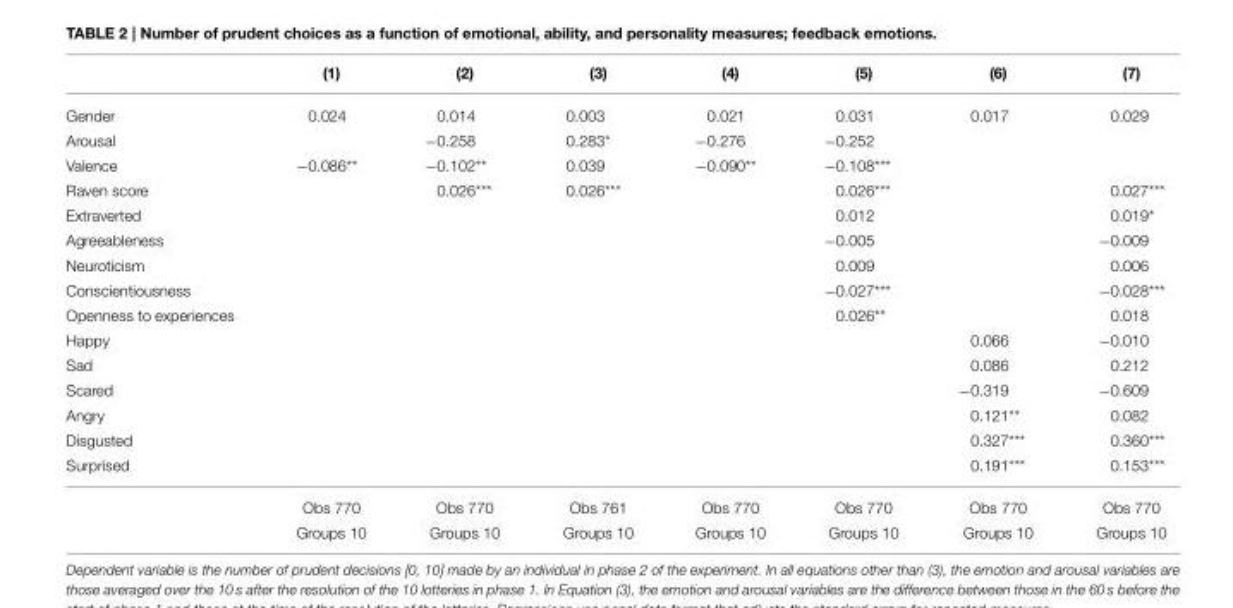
<table><thead><tr><td></td><td>(1)</td><td>(2)</td><td>(3)</td><td>(4)</td><td>(5)</td><td>(6)</td><td>(7)</td></tr></thead><tbody><tr><td>Gender</td><td>0.024</td><td>0.014</td><td>0.003</td><td>0.021</td><td>0.031</td><td>0.017</td><td>0.029</td></tr><tr><td>Arousal</td><td></td><td>−0.258</td><td>0.283*</td><td>−0.276</td><td>−0.252</td><td></td><td></td></tr><tr><td>Valence</td><td>−0.086**</td><td>−0.102**</td><td>0.039</td><td>−0.090**</td><td>−0.108***</td><td></td><td></td></tr><tr><td>Raven score</td><td></td><td>0.026***</td><td>0.026***</td><td></td><td>0.026***</td><td></td><td>0.027***</td></tr><tr><td>Extraverted</td><td></td><td></td><td></td><td></td><td>0.012</td><td></td><td>0.019*</td></tr><tr><td>Agreeableness</td><td></td><td></td><td></td><td></td><td>−0.005</td><td></td><td>−0.009</td></tr><tr><td>Neuroticism</td><td></td><td></td><td></td><td></td><td>0.009</td><td></td><td>0.006</td></tr><tr><td>Conscientiousness</td><td></td><td></td><td></td><td></td><td>−0.027***</td><td></td><td>−0.028***</td></tr><tr><td>Openness to experiences</td><td></td><td></td><td></td><td></td><td>0.026**</td><td></td><td>0.018</td></tr><tr><td>Happy</td><td></td><td></td><td></td><td></td><td></td><td>0.066</td><td>−0.010</td></tr><tr><td>Sad</td><td></td><td></td><td></td><td></td><td></td><td>0.086</td><td>0.212</td></tr><tr><td>Scared</td><td></td><td></td><td></td><td></td><td></td><td>−0.319</td><td>−0.609</td></tr><tr><td>Angry</td><td></td><td></td><td></td><td></td><td></td><td>0.121**</td><td>0.082</td></tr><tr><td>Disgusted</td><td></td><td></td><td></td><td></td><td></td><td>0.327***</td><td>0.360***</td></tr><tr><td rowspan="3">Surprised</td><td></td><td></td><td></td><td></td><td></td><td>0.191***</td><td>0.153***</td></tr><tr><td>Obs 770</td><td>Obs 770</td><td>Obs 761</td><td>Obs 770</td><td>Obs 770</td><td>Obs 770</td><td>Obs 770</td></tr><tr><td>Groups 10</td><td>Groups 10</td><td>Groups 10</td><td>Groups 10</td><td>Groups 10</td><td>Groups 10</td><td>Groups 10</td></tr></tbody></table>